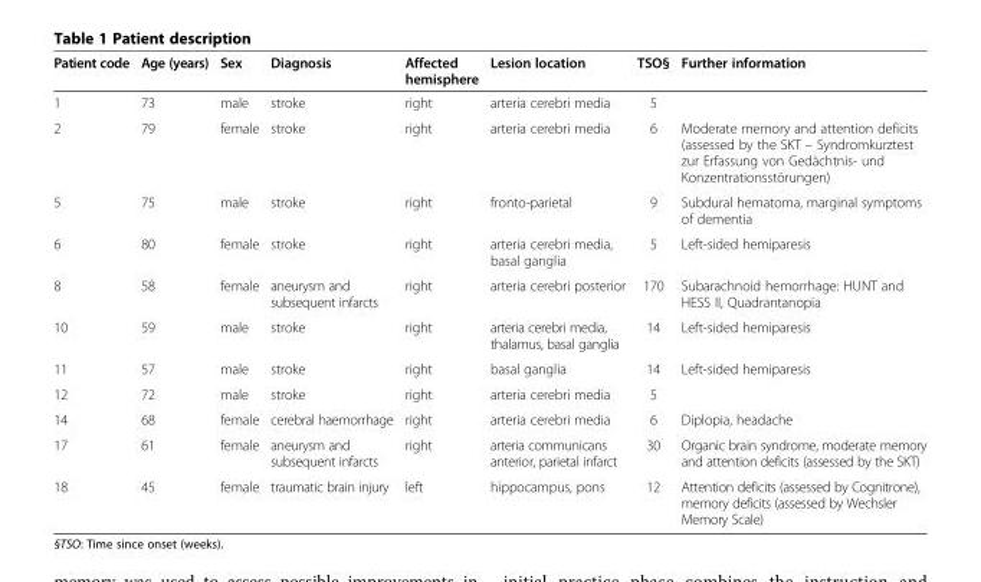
<table><thead><tr><td>Patient code</td><td>Age (years)</td><td>Sex</td><td>Diagnosis</td><td>Affected hemisphere</td><td>Lesion location</td><td>TSO§</td><td>Further information</td></tr></thead><tbody><tr><td>1</td><td>73</td><td>male</td><td>stroke</td><td>right</td><td>arteria cerebri media</td><td>5</td><td></td></tr><tr><td>2</td><td>79</td><td>female</td><td>stroke</td><td>right</td><td>arteria cerebri media</td><td>6</td><td>Moderate memory and attention deficits (assessed by the SKT – Syndromkurztest zur Erfassung von Gedächtnis- und Konzentrationsstörungen)</td></tr><tr><td>5</td><td>75</td><td>male</td><td>stroke</td><td>right</td><td>fronto-parietal</td><td>9</td><td>Subdural hematoma, marginal symptoms of dementia</td></tr><tr><td>6</td><td>80</td><td>female</td><td>stroke</td><td>right</td><td>arteria cerebri media, basal ganglia</td><td>5</td><td>Left-sided hemiparesis</td></tr><tr><td>8</td><td>58</td><td>female</td><td>aneurysm and subsequent infarcts</td><td>right</td><td>arteria cerebri posterior</td><td>170</td><td>Subarachnoid hemorrhage: HUNT and HESS II, Quadrantanopia</td></tr><tr><td>10</td><td>59</td><td>male</td><td>stroke</td><td>right</td><td>arteria cerebri media, thalamus, basal ganglia</td><td>14</td><td>Left-sided hemiparesis</td></tr><tr><td>11</td><td>57</td><td>male</td><td>stroke</td><td>right</td><td>basal ganglia</td><td>14</td><td>Left-sided hemiparesis</td></tr><tr><td>12</td><td>72</td><td>male</td><td>stroke</td><td>right</td><td>arteria cerebri media</td><td>5</td><td></td></tr><tr><td>14</td><td>68</td><td>female</td><td>cerebral haemorrhage</td><td>right</td><td>arteria cerebri media</td><td>6</td><td>Diplopia, headache</td></tr><tr><td>17</td><td>61</td><td>female</td><td>aneurysm and subsequent infarcts</td><td>right</td><td>arteria communicans anterior, parietal infarct</td><td>30</td><td>Organic brain syndrome, moderate memory and attention deficits (assessed by the SKT)</td></tr><tr><td>18</td><td>45</td><td>female</td><td>traumatic brain injury</td><td>left</td><td>hippocampus, pons</td><td>12</td><td>Attention deficits (assessed by Cognitrone), memory deficits (assessed by Wechsler Memory Scale)</td></tr></tbody></table>